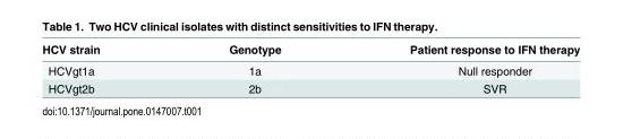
<table><thead><tr><td>HCV strain</td><td>Genotype</td><td>Patient response to IFN therapy</td></tr></thead><tbody><tr><td>HCVgt1a</td><td>1a</td><td>Null responder</td></tr><tr><td>HCVgt2b</td><td>2b</td><td>SVR</td></tr></tbody></table>